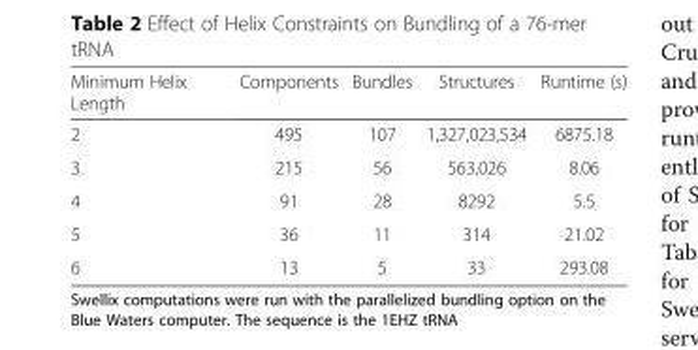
<table><thead><tr><td>Minimum Helix Length</td><td>Components</td><td>Bundles</td><td>Structures</td><td>Runtime (s)</td></tr></thead><tbody><tr><td>2</td><td>495</td><td>107</td><td>1,327,023,534</td><td>6875.18</td></tr><tr><td>3</td><td>215</td><td>56</td><td>563,026</td><td>8.06</td></tr><tr><td>4</td><td>91</td><td>28</td><td>8292</td><td>5.5</td></tr><tr><td>5</td><td>36</td><td>11</td><td>314</td><td>21.02</td></tr><tr><td>6</td><td>13</td><td>5</td><td>33</td><td>293.08</td></tr></tbody></table>